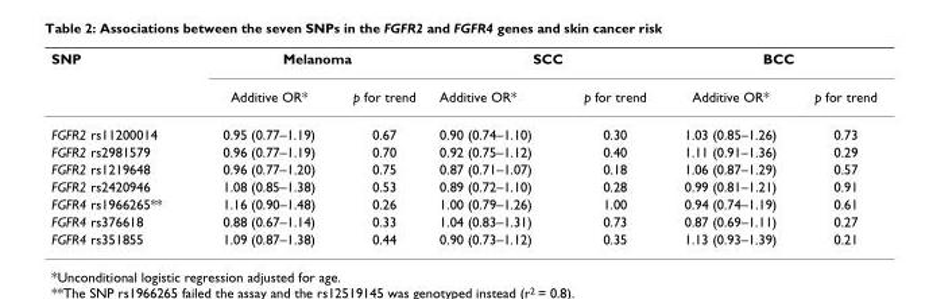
<table><thead><tr><td rowspan="2">SNP</td><td colspan="2">Melanoma</td><td colspan="2">SCC</td><td colspan="2">BCC</td></tr><tr><td>Additive OR*</td><td>p for trend</td><td>Additive OR*</td><td>p for trend</td><td>Additive OR*</td><td>p for trend</td></tr></thead><tbody><tr><td>FGFR2 rs11200014</td><td>0.95 (0.77–1.19)</td><td>0.67</td><td>0.90 (0.74–1.10)</td><td>0.30</td><td>1.03 (0.85–1.26)</td><td>0.73</td></tr><tr><td>FGFR2 rs2981579</td><td>0.96 (0.77–1.19)</td><td>0.70</td><td>0.92 (0.75–1.12)</td><td>0.40</td><td>1.11 (0.91–1.36)</td><td>0.29</td></tr><tr><td>FGFR2 rs1219648</td><td>0.96 (0.77–1.20)</td><td>0.75</td><td>0.87 (0.71–1.07)</td><td>0.18</td><td>1.06 (0.87–1.29)</td><td>0.57</td></tr><tr><td>FGFR2 rs2420946</td><td>1.08 (0.85–1.38)</td><td>0.53</td><td>0.89 (0.72–1.10)</td><td>0.28</td><td>0.99 (0.81–1.21)</td><td>0.91</td></tr><tr><td>FGFR4 rs1966265**</td><td>1.16 (0.90–1.48)</td><td>0.26</td><td>1.00 (0.79–1.26)</td><td>1.00</td><td>0.94 (0.74–1.19)</td><td>0.61</td></tr><tr><td>FGFR4 rs376618</td><td>0.88 (0.67–1.14)</td><td>0.33</td><td>1.04 (0.83–1.31)</td><td>0.73</td><td>0.87 (0.69–1.11)</td><td>0.27</td></tr><tr><td>FGFR4 rs351855</td><td>1.09 (0.87–1.38)</td><td>0.44</td><td>0.90 (0.73–1.12)</td><td>0.35</td><td>1.13 (0.93–1.39)</td><td>0.21</td></tr></tbody></table>